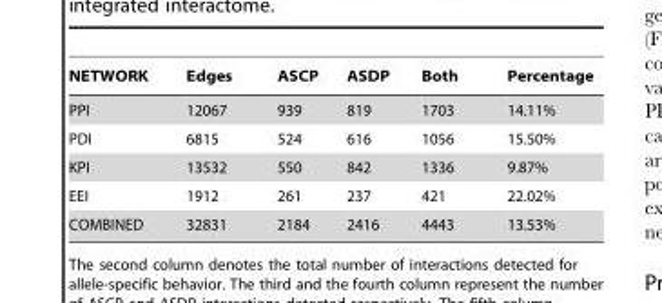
<table><thead><tr><td>NETWORK</td><td>Edges</td><td>ASCP</td><td>ASDP</td><td>Both</td><td>Percentage</td></tr></thead><tbody><tr><td>PPI</td><td>12067</td><td>939</td><td>819</td><td>1703</td><td>14.11%</td></tr><tr><td>PDI</td><td>6815</td><td>524</td><td>616</td><td>1056</td><td>15.50%</td></tr><tr><td>KPI</td><td>13532</td><td>550</td><td>842</td><td>1336</td><td>9.87%</td></tr><tr><td>EEI</td><td>1912</td><td>261</td><td>237</td><td>421</td><td>22.02%</td></tr><tr><td>COMBINED</td><td>32831</td><td>2184</td><td>2416</td><td>4443</td><td>13.53%</td></tr></tbody></table>